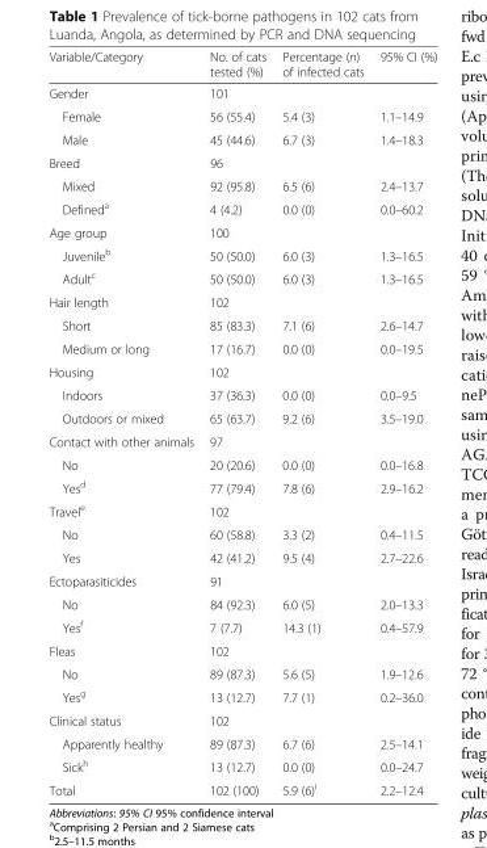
<table><thead><tr><td>Variable/Category</td><td>No. of cats tested (%)</td><td>Percentage (n) of infected cats</td><td>95% CI (%)</td></tr></thead><tbody><tr><td>Gender</td><td>101</td><td></td><td></td></tr><tr><td>Female</td><td>56 (55.4)</td><td>5.4 (3)</td><td>1.1–14.9</td></tr><tr><td>Male</td><td>45 (44.6)</td><td>6.7 (3)</td><td>1.4–18.3</td></tr><tr><td>Breed</td><td>96</td><td></td><td></td></tr><tr><td>Mixed</td><td>92 (95.8)</td><td>6.5 (6)</td><td>2.4–13.7</td></tr><tr><td>Defined<sup>a</sup></td><td>4 (4.2)</td><td>0.0 (0)</td><td>0.0–60.2</td></tr><tr><td>Age group</td><td>100</td><td></td><td></td></tr><tr><td>Juvenile<sup>b</sup></td><td>50 (50.0)</td><td>6.0 (3)</td><td>1.3–16.5</td></tr><tr><td>Adult<sup>c</sup></td><td>50 (50.0)</td><td>6.0 (3)</td><td>1.3–16.5</td></tr><tr><td>Hair length</td><td>102</td><td></td><td></td></tr><tr><td>Short</td><td>85 (83.3)</td><td>7.1 (6)</td><td>2.6–14.7</td></tr><tr><td>Medium or long</td><td>17 (16.7)</td><td>0.0 (0)</td><td>0.0–19.5</td></tr><tr><td>Housing</td><td>102</td><td></td><td></td></tr><tr><td>Indoors</td><td>37 (36.3)</td><td>0.0 (0)</td><td>0.0–9.5</td></tr><tr><td>Outdoors or mixed</td><td>65 (63.7)</td><td>9.2 (6)</td><td>3.5–19.0</td></tr><tr><td>Contact with other animals</td><td>97</td><td></td><td></td></tr><tr><td>No</td><td>20 (20.6)</td><td>0.0 (0)</td><td>0.0–16.8</td></tr><tr><td>Yes<sup>d</sup></td><td>77 (79.4)</td><td>7.8 (6)</td><td>2.9–16.2</td></tr><tr><td>Travel<sup>e</sup></td><td>102</td><td></td><td></td></tr><tr><td>No</td><td>60 (58.8)</td><td>3.3 (2)</td><td>0.4–11.5</td></tr><tr><td>Yes</td><td>42 (41.2)</td><td>9.5 (4)</td><td>2.7–22.6</td></tr><tr><td>Ectoparasiticides</td><td>91</td><td></td><td></td></tr><tr><td>No</td><td>84 (92.3)</td><td>6.0 (5)</td><td>2.0–13.3</td></tr><tr><td>Yes<sup>f</sup></td><td>7 (7.7)</td><td>14.3 (1)</td><td>0.4–57.9</td></tr><tr><td>Fleas</td><td>102</td><td></td><td></td></tr><tr><td>No</td><td>89 (87.3)</td><td>5.6 (5)</td><td>1.9–12.6</td></tr><tr><td>Yes<sup>g</sup></td><td>13 (12.7)</td><td>7.7 (1)</td><td>0.2–36.0</td></tr><tr><td>Clinical status</td><td>102</td><td></td><td></td></tr><tr><td>Apparently healthy</td><td>89 (87.3)</td><td>6.7 (6)</td><td>2.5–14.1</td></tr><tr><td>Sick<sup>h</sup></td><td>13 (12.7)</td><td>0.0 (0)</td><td>0.0–24.7</td></tr><tr><td>Total</td><td>102 (100)</td><td>5.9 (6)<sup>i</sup></td><td>2.2–12.4</td></tr></tbody></table>